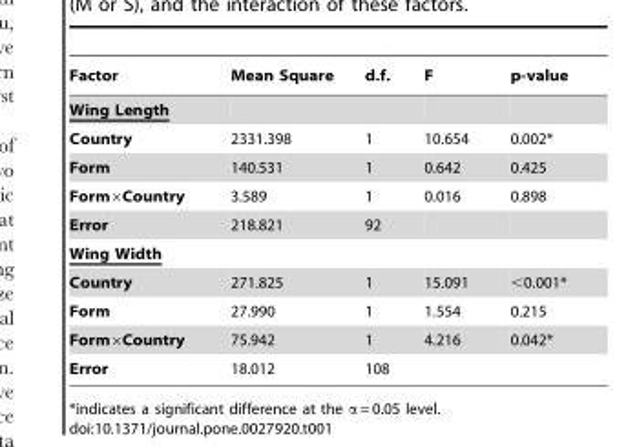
<table><thead><tr><td>Factor</td><td>Mean Square</td><td>d.f.</td><td>F</td><td>p-value</td></tr></thead><tbody><tr><td colspan="5">Wing Length</td></tr><tr><td>Country</td><td>2331.398</td><td>1</td><td>10.654</td><td>0.002*</td></tr><tr><td>Form</td><td>140.531</td><td>1</td><td>0.642</td><td>0.425</td></tr><tr><td>Form×Country</td><td>3.589</td><td>1</td><td>0.016</td><td>0.898</td></tr><tr><td>Error</td><td>218.821</td><td>92</td><td></td><td></td></tr><tr><td colspan="5">Wing Width</td></tr><tr><td>Country</td><td>271.825</td><td>1</td><td>15.091</td><td>&lt;0.001*</td></tr><tr><td>Form</td><td>27.990</td><td>1</td><td>1.554</td><td>0.215</td></tr><tr><td>Form×Country</td><td>75.942</td><td>1</td><td>4.216</td><td>0.042*</td></tr><tr><td>Error</td><td>18.012</td><td>108</td><td></td><td></td></tr></tbody></table>